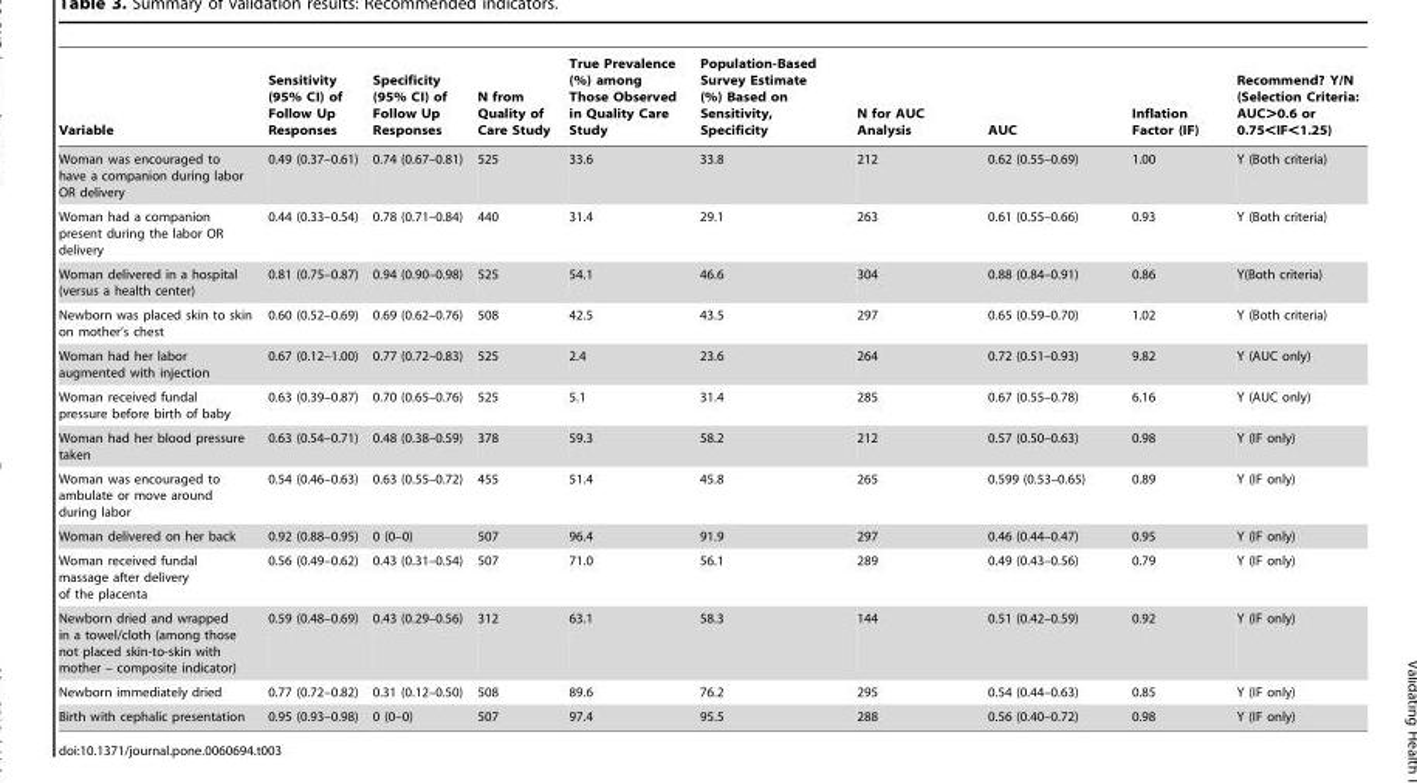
<table><thead><tr><td>Variable</td><td>Sensitivity (95% CI) of Follow Up Responses</td><td>Specificity (95% CI) of Follow Up Responses</td><td>N from Quality of Care Study</td><td>True Prevalence (%) among Those Observed in Quality Care Study</td><td>Population-Based Survey Estimate (%) Based on Sensitivity, Specificity</td><td>N for AUC Analysis</td><td>AUC</td><td>Inflation Factor (IF)</td><td>Recommend? Y/N (Selection Criteria: AUC&gt;0.6 or 0.75&lt;IF&lt;1.25)</td></tr></thead><tbody><tr><td>Woman was encouraged to have a companion during labor OR delivery</td><td>0.49 (0.37–0.61)</td><td>0.74 (0.67–0.81)</td><td>525</td><td>33.6</td><td>33.8</td><td>212</td><td>0.62 (0.55–0.69)</td><td>1.00</td><td>Y (Both criteria)</td></tr><tr><td>Woman had a companion present during the labor OR delivery</td><td>0.44 (0.33–0.54)</td><td>0.78 (0.71–0.84)</td><td>440</td><td>31.4</td><td>29.1</td><td>263</td><td>0.61 (0.55–0.66)</td><td>0.93</td><td>Y (Both criteria)</td></tr><tr><td>Woman delivered in a hospital (versus a health center)</td><td>0.81 (0.75–0.87)</td><td>0.94 (0.90–0.98)</td><td>525</td><td>54.1</td><td>46.6</td><td>304</td><td>0.88 (0.84–0.91)</td><td>0.86</td><td>Y(Both criteria)</td></tr><tr><td>Newborn was placed skin to skin on mother’s chest</td><td>0.60 (0.52–0.69)</td><td>0.69 (0.62–0.76)</td><td>508</td><td>42.5</td><td>43.5</td><td>297</td><td>0.65 (0.59–0.70)</td><td>1.02</td><td>Y (Both criteria)</td></tr><tr><td>Woman had her labor augmented with injection</td><td>0.67 (0.12–1.00)</td><td>0.77 (0.72–0.83)</td><td>525</td><td>2.4</td><td>23.6</td><td>264</td><td>0.72 (0.51–0.93)</td><td>9.82</td><td>Y (AUC only)</td></tr><tr><td>Woman received fundal pressure before birth of baby</td><td>0.63 (0.39–0.87)</td><td>0.70 (0.65–0.76)</td><td>525</td><td>5.1</td><td>31.4</td><td>285</td><td>0.67 (0.55–0.78)</td><td>6.16</td><td>Y (AUC only)</td></tr><tr><td>Woman had her blood pressure taken</td><td>0.63 (0.54–0.71)</td><td>0.48 (0.38–0.59)</td><td>378</td><td>59.3</td><td>58.2</td><td>212</td><td>0.57 (0.50–0.63)</td><td>0.98</td><td>Y (IF only)</td></tr><tr><td>Woman was encouraged to ambulate or move around during labor</td><td>0.54 (0.46–0.63)</td><td>0.63 (0.55–0.72)</td><td>455</td><td>51.4</td><td>45.8</td><td>265</td><td>0.599 (0.53–0.65)</td><td>0.89</td><td>Y (IF only)</td></tr><tr><td>Woman delivered on her back</td><td>0.92 (0.88–0.95)</td><td>0 (0–0)</td><td>507</td><td>96.4</td><td>91.9</td><td>297</td><td>0.46 (0.44–0.47)</td><td>0.95</td><td>Y (IF only)</td></tr><tr><td>Woman received fundal massage after delivery of the placenta</td><td>0.56 (0.49–0.62)</td><td>0.43 (0.31–0.54)</td><td>507</td><td>71.0</td><td>56.1</td><td>289</td><td>0.49 (0.43–0.56)</td><td>0.79</td><td>Y (IF only)</td></tr><tr><td>Newborn dried and wrapped in a towel/cloth (among those not placed skin-to-skin with mother – composite indicator)</td><td>0.59 (0.48–0.69)</td><td>0.43 (0.29–0.56)</td><td>312</td><td>63.1</td><td>58.3</td><td>144</td><td>0.51 (0.42–0.59)</td><td>0.92</td><td>Y (IF only)</td></tr><tr><td>Newborn immediately dried</td><td>0.77 (0.72–0.82)</td><td>0.31 (0.12–0.50)</td><td>508</td><td>89.6</td><td>76.2</td><td>295</td><td>0.54 (0.44–0.63)</td><td>0.85</td><td>Y (IF only)</td></tr><tr><td>Birth with cephalic presentation</td><td>0.95 (0.93–0.98)</td><td>0 (0–0)</td><td>507</td><td>97.4</td><td>95.5</td><td>288</td><td>0.56 (0.40–0.72)</td><td>0.98</td><td>Y (IF only)</td></tr></tbody></table>